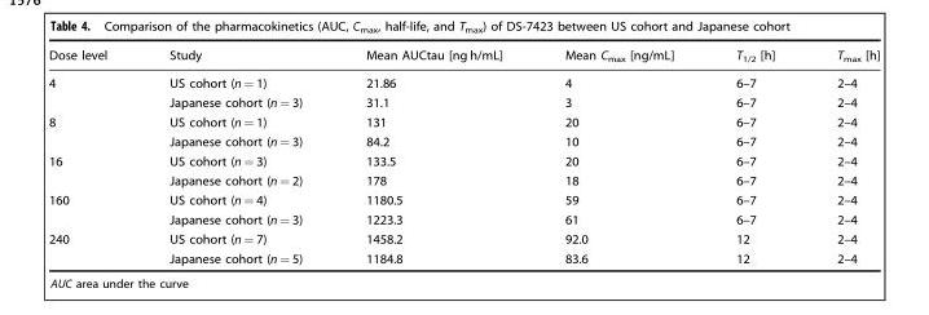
<table><thead><tr><td>Dose level</td><td>Study</td><td>Mean AUCtau [ng h/mL]</td><td>Mean C<sub>max</sub> [ng/mL]</td><td>T<sub>1/2</sub> [h]</td><td>T<sub>max</sub> [h]</td></tr></thead><tbody><tr><td rowspan="2">4</td><td>US cohort (n = 1)</td><td>21.86</td><td>4</td><td>6–7</td><td>2–4</td></tr><tr><td>Japanese cohort (n = 3)</td><td>31.1</td><td>3</td><td>6–7</td><td>2–4</td></tr><tr><td rowspan="2">8</td><td>US cohort (n = 1)</td><td>131</td><td>20</td><td>6–7</td><td>2–4</td></tr><tr><td>Japanese cohort (n = 3)</td><td>84.2</td><td>10</td><td>6–7</td><td>2–4</td></tr><tr><td rowspan="2">16</td><td>US cohort (n = 3)</td><td>133.5</td><td>20</td><td>6–7</td><td>2–4</td></tr><tr><td>Japanese cohort (n = 2)</td><td>178</td><td>18</td><td>6–7</td><td>2–4</td></tr><tr><td rowspan="2">160</td><td>US cohort (n = 4)</td><td>1180.5</td><td>59</td><td>6–7</td><td>2–4</td></tr><tr><td>Japanese cohort (n = 3)</td><td>1223.3</td><td>61</td><td>6–7</td><td>2–4</td></tr><tr><td rowspan="2">240</td><td>US cohort (n = 7)</td><td>1458.2</td><td>92.0</td><td>12</td><td>2–4</td></tr><tr><td>Japanese cohort (n = 5)</td><td>1184.8</td><td>83.6</td><td>12</td><td>2–4</td></tr></tbody></table>